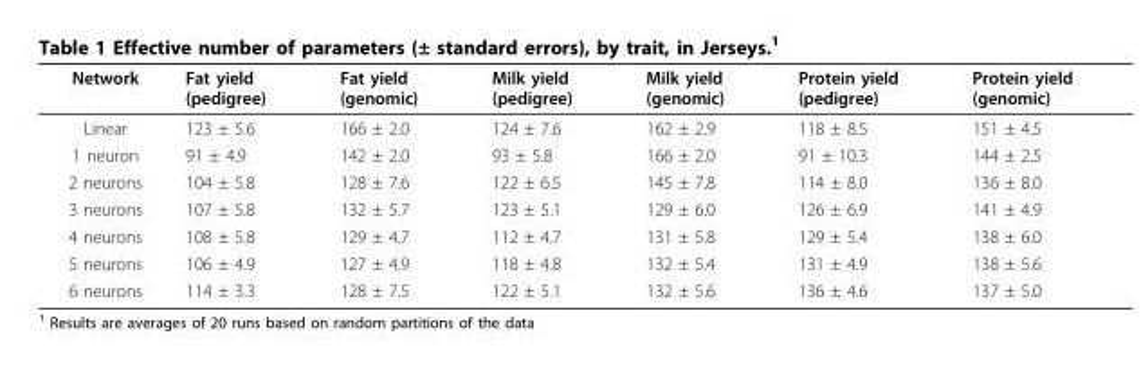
<table><thead><tr><td>Network</td><td>Fat yield (pedigree)</td><td>Fat yield (genomic)</td><td>Milk yield (pedigree)</td><td>Milk yield (genomic)</td><td>Protein yield (pedigree)</td><td>Protein yield (genomic)</td></tr></thead><tbody><tr><td>Linear</td><td>123 ± 5.6</td><td>166 ± 2.0</td><td>124 ± 7.6</td><td>162 ± 2.9</td><td>118 ± 8.5</td><td>151 ± 4.5</td></tr><tr><td>1 neuron</td><td>91 ± 4.9</td><td>142 ± 2.0</td><td>93 ± 5.8</td><td>166 ± 2.0</td><td>91 ± 10.3</td><td>144 ± 2.5</td></tr><tr><td>2 neurons</td><td>104 ± 5.8</td><td>128 ± 7.6</td><td>122 ± 6.5</td><td>145 ± 7.8</td><td>114 ± 8.0</td><td>136 ± 8.0</td></tr><tr><td>3 neurons</td><td>107 ± 5.8</td><td>132 ± 5.7</td><td>123 ± 5.1</td><td>129 ± 6.0</td><td>126 ± 6.9</td><td>141 ± 4.9</td></tr><tr><td>4 neurons</td><td>108 ± 5.8</td><td>129 ± 4.7</td><td>112 ± 4.7</td><td>131 ± 5.8</td><td>129 ± 5.4</td><td>138 ± 6.0</td></tr><tr><td>5 neurons</td><td>106 ± 4.9</td><td>127 ± 4.9</td><td>118 ± 4.8</td><td>132 ± 5.4</td><td>131 ± 4.9</td><td>138 ± 5.6</td></tr><tr><td>6 neurons</td><td>114 ± 3.3</td><td>128 ± 7.5</td><td>122 ± 5.1</td><td>132 ± 5.6</td><td>136 ± 4.6</td><td>137 ± 5.0</td></tr></tbody></table>